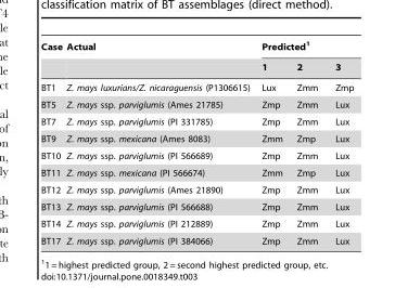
<table><thead><tr><td rowspan="2">Case</td><td rowspan="2">Actual</td><td colspan="3">Predicted<sup>1</sup></td></tr><tr><td>1</td><td>2</td><td>3</td></tr></thead><tbody><tr><td>BT1</td><td>Z. mays luxurians/Z. nicaraguensis (P1306615)</td><td>Lux</td><td>Zmm</td><td>Zmp</td></tr><tr><td>BT5</td><td>Z. mays ssp. parviglumis (Ames 21785)</td><td>Zmp</td><td>Zmm</td><td>Lux</td></tr><tr><td>BT7</td><td>Z. mays ssp. parviglumis (PI 331785)</td><td>Zmp</td><td>Zmm</td><td>Lux</td></tr><tr><td>BT9</td><td>Z. mays ssp. mexicana (Ames 8083)</td><td>Zmm</td><td>Zmp</td><td>Lux</td></tr><tr><td>BT10</td><td>Z. mays ssp. parviglumis (PI 566689)</td><td>Zmp</td><td>Zmm</td><td>Lux</td></tr><tr><td>BT11</td><td>Z. mays ssp. mexicana (PI 566674)</td><td>Zmm</td><td>Zmp</td><td>Lux</td></tr><tr><td>BT12</td><td>Z. mays ssp. parviglumis (Ames 21890)</td><td>Zmp</td><td>Zmm</td><td>Lux</td></tr><tr><td>BT13</td><td>Z. mays ssp. parviglumis (PI 566688)</td><td>Zmp</td><td>Zmm</td><td>Lux</td></tr><tr><td>BT14</td><td>Z. mays ssp. parviglumis (PI 212889)</td><td>Zmp</td><td>Zmm</td><td>Lux</td></tr><tr><td>BT17</td><td>Z. mays ssp. parviglumis (PI 384066)</td><td>Zmp</td><td>Zmm</td><td>Lux</td></tr></tbody></table>